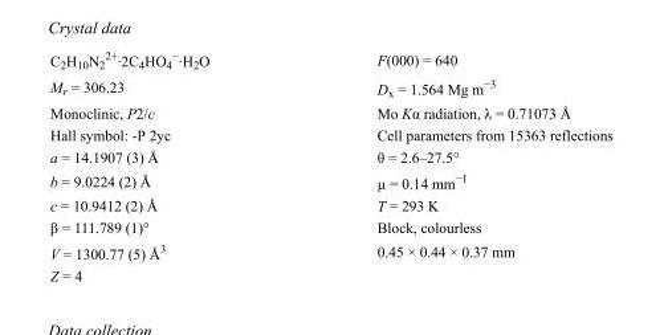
<table><tbody><tr><td>C<sub>2</sub>H<sub>10</sub>N<sub>2</sub> <sup>2+</sup>·2C<sub>4</sub>HO<sub>4</sub> <sup>−</sup>·H<sub>2</sub>O</td><td>F(000) = 640</td></tr><tr><td>M<sub>r</sub> = 306.23</td><td>D<sub>x</sub> = 1.564 Mg m<sup>−3</sup></td></tr><tr><td>Monoclinic, P2/c</td><td>Mo Kα radiation, λ = 0.71073 Å</td></tr><tr><td>Hall symbol: -P 2yc</td><td>Cell parameters from 15363 reflections</td></tr><tr><td>a = 14.1907 (3) Å</td><td>θ = 2.6–27.5°</td></tr><tr><td>b = 9.0224 (2) Å</td><td>µ = 0.14 mm<sup>−1</sup></td></tr><tr><td>c = 10.9412 (2) Å</td><td>T = 293 K</td></tr><tr><td>β = 111.789 (1)°</td><td>Block, colourless</td></tr><tr><td>V = 1300.77 (5) Å<sup>3</sup></td><td>0.45 × 0.44 × 0.37 mm</td></tr><tr><td>Z = 4</td><td></td></tr></tbody></table>